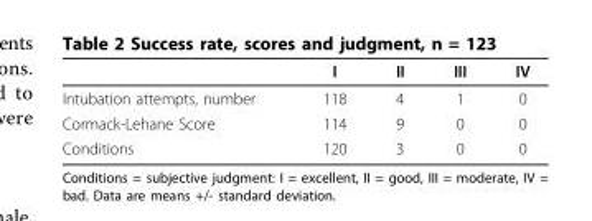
<table><thead><tr><td></td><td>I</td><td>II</td><td>III</td><td>IV</td></tr></thead><tbody><tr><td>Intubation attempts, number</td><td>118</td><td>4</td><td>1</td><td>0</td></tr><tr><td>Cormack-Lehane Score</td><td>114</td><td>9</td><td>0</td><td>0</td></tr><tr><td>Conditions</td><td>120</td><td>3</td><td>0</td><td>0</td></tr></tbody></table>